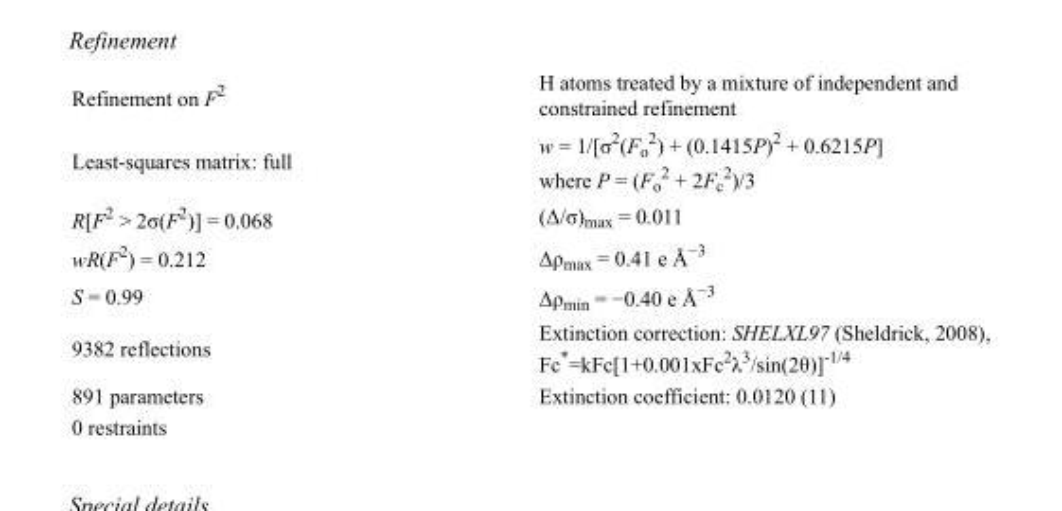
<table><tbody><tr><td>Refinement on F<sup>2</sup></td><td>H atoms treated by a mixture of independent and constrained refinement</td></tr><tr><td>Least-squares matrix: full</td><td>w = 1/[σ<sup>2</sup>(F<sub>o</sub> <sup>2</sup>) + (0.1415P)<sup>2</sup> + 0.6215P] where P = (F<sub>o</sub> <sup>2</sup> + 2F<sub>c</sub> <sup>2</sup>)/3</td></tr><tr><td>R[F<sup>2</sup> &gt; 2σ(F<sup>2</sup>)] = 0.068</td><td>(Δ/σ)<sub>max</sub> = 0.011</td></tr><tr><td>wR(F<sup>2</sup>) = 0.212</td><td>Δρ<sub>max</sub> = 0.41 e Å<sup>−3</sup></td></tr><tr><td>S = 0.99</td><td>Δρ<sub>min</sub> = −0.40 e Å<sup>−3</sup></td></tr><tr><td>9382 reflections</td><td>Extinction correction: SHELXL97 (Sheldrick, 2008), Fc*=kFc[1+0.001xFc<sup>2</sup>λ<sup>3</sup>/sin(2θ)]<sup>-1/4</sup></td></tr><tr><td>891 parameters</td><td>Extinction coefficient: 0.0120 (11)</td></tr><tr><td>0 restraints</td><td></td></tr></tbody></table>